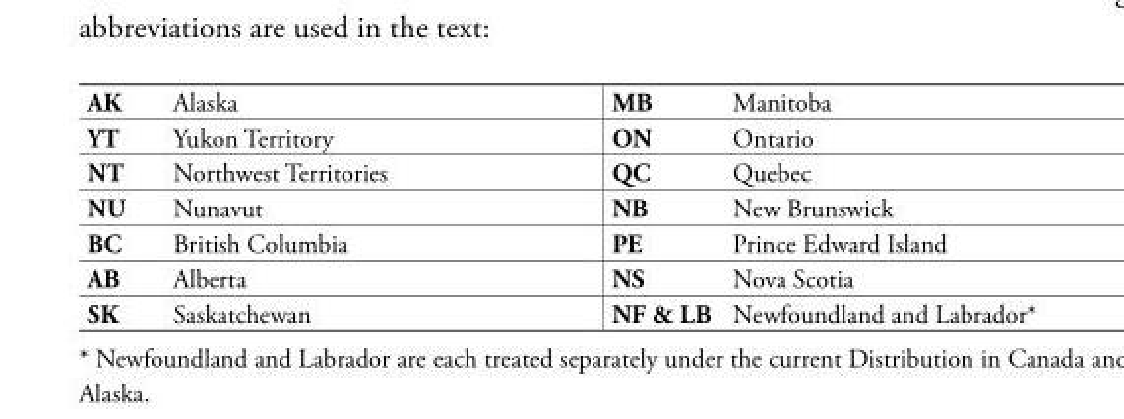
<table><tbody><tr><td>AK</td><td>Alaska</td><td>MB</td><td>Manitoba</td></tr><tr><td>YT</td><td>Yukon Territory</td><td>ON</td><td>Ontario</td></tr><tr><td>NT</td><td>Northwest Territories</td><td>QC</td><td>Quebec</td></tr><tr><td>NU</td><td>Nunavut</td><td>NB</td><td>New Brunswick</td></tr><tr><td>BC</td><td>British Columbia</td><td>PE</td><td>Prince Edward Island</td></tr><tr><td>AB</td><td>Alberta</td><td>NS</td><td>Nova Scotia</td></tr><tr><td>SK</td><td>Saskatchewan</td><td>NF &amp; LB</td><td>Newfoundland and Labrador*</td></tr></tbody></table>